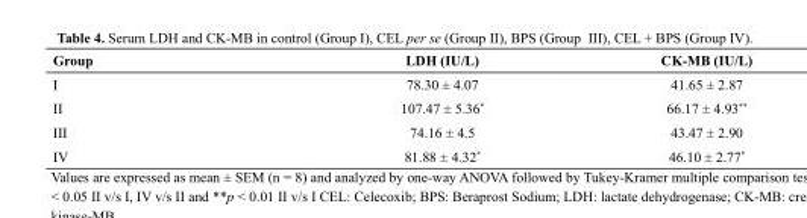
<table><thead><tr><td>Group</td><td>LDH (IU/L)</td><td>CK-MB (IU/L)</td></tr></thead><tbody><tr><td>I</td><td>78.30 ± 4.07</td><td>41.65 ± 2.87</td></tr><tr><td>II</td><td>107.47 ± 5.36*</td><td>66.17 ± 4.93**</td></tr><tr><td>III</td><td>74.16 ± 4.5</td><td>43.47 ± 2.90</td></tr><tr><td>IV</td><td>81.88 ± 4.32*</td><td>46.10 ± 2.77*</td></tr></tbody></table>